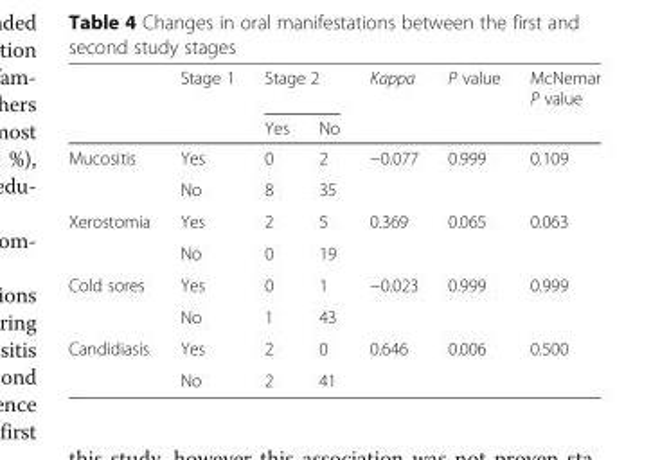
<table><thead><tr><td rowspan="2"></td><td rowspan="2">Stage 1</td><td colspan="2">Stage 2</td><td rowspan="2">Kappa</td><td rowspan="2">P value</td><td rowspan="2">McNemar P value</td></tr><tr><td>Yes</td><td>No</td></tr></thead><tbody><tr><td rowspan="2">Mucositis</td><td>Yes</td><td>0</td><td>2</td><td>−0.077</td><td>0.999</td><td>0.109</td></tr><tr><td>No</td><td>8</td><td>35</td><td></td><td></td><td></td></tr><tr><td rowspan="2">Xerostomia</td><td>Yes</td><td>2</td><td>5</td><td>0.369</td><td>0.065</td><td>0.063</td></tr><tr><td>No</td><td>0</td><td>19</td><td></td><td></td><td></td></tr><tr><td rowspan="2">Cold sores</td><td>Yes</td><td>0</td><td>1</td><td>−0.023</td><td>0.999</td><td>0.999</td></tr><tr><td>No</td><td>1</td><td>43</td><td></td><td></td><td></td></tr><tr><td rowspan="2">Candidiasis</td><td>Yes</td><td>2</td><td>0</td><td>0.646</td><td>0.006</td><td>0.500</td></tr><tr><td>No</td><td>2</td><td>41</td><td></td><td></td><td></td></tr></tbody></table>